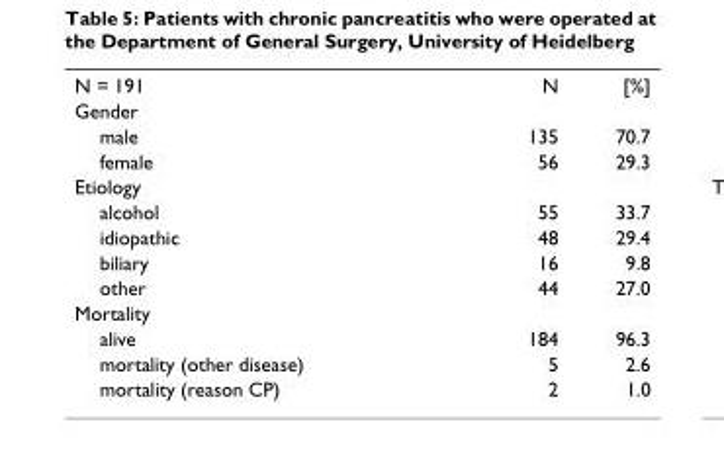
<table><tbody><tr><td>N = 191</td><td>N</td><td>[%]</td></tr><tr><td colspan="3">Gender</td></tr><tr><td>male</td><td>135</td><td>70.7</td></tr><tr><td>female</td><td>56</td><td>29.3</td></tr><tr><td colspan="3">Etiology</td></tr><tr><td>alcohol</td><td>55</td><td>33.7</td></tr><tr><td>idiopathic</td><td>48</td><td>29.4</td></tr><tr><td>biliary</td><td>16</td><td>9.8</td></tr><tr><td>other</td><td>44</td><td>27.0</td></tr><tr><td colspan="3">Mortality</td></tr><tr><td>alive</td><td>184</td><td>96.3</td></tr><tr><td>mortality (other disease)</td><td>5</td><td>2.6</td></tr><tr><td>mortality (reason CP)</td><td>2</td><td>1.0</td></tr></tbody></table>